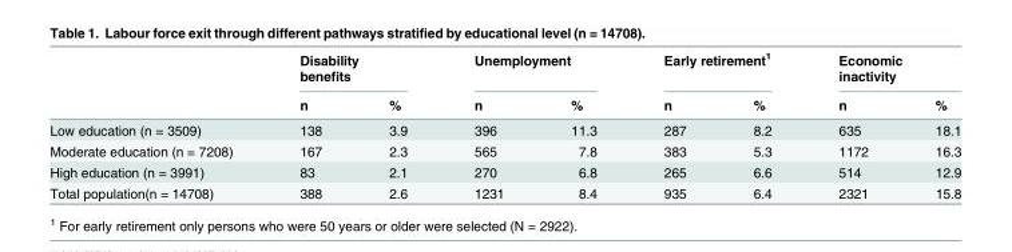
<table><thead><tr><td rowspan="2"></td><td colspan="2">Disability benefits</td><td colspan="2">Unemployment</td><td colspan="2">Early retirement<sup>1</sup></td><td colspan="2">Economic inactivity</td></tr><tr><td>n</td><td>%</td><td>n</td><td>%</td><td>n</td><td>%</td><td>n</td><td>%</td></tr></thead><tbody><tr><td>Low education (n = 3509)</td><td>138</td><td>3.9</td><td>396</td><td>11.3</td><td>287</td><td>8.2</td><td>635</td><td>18.1</td></tr><tr><td>Moderate education (n = 7208)</td><td>167</td><td>2.3</td><td>565</td><td>7.8</td><td>383</td><td>5.3</td><td>1172</td><td>16.3</td></tr><tr><td>High education (n = 3991)</td><td>83</td><td>2.1</td><td>270</td><td>6.8</td><td>265</td><td>6.6</td><td>514</td><td>12.9</td></tr><tr><td>Total population(n = 14708)</td><td>388</td><td>2.6</td><td>1231</td><td>8.4</td><td>935</td><td>6.4</td><td>2321</td><td>15.8</td></tr></tbody></table>